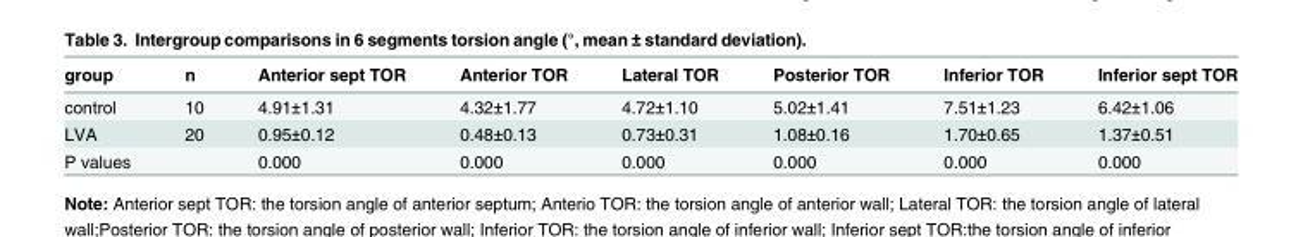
<table><thead><tr><td>group</td><td>n</td><td>Anterior sept TOR</td><td>Anterior TOR</td><td>Lateral TOR</td><td>Posterior TOR</td><td>Inferior TOR</td><td>Inferior sept TOR</td></tr></thead><tbody><tr><td>control</td><td>10</td><td>4.91±1.31</td><td>4.32±1.77</td><td>4.72±1.10</td><td>5.02±1.41</td><td>7.51±1.23</td><td>6.42±1.06</td></tr><tr><td>LVA</td><td>20</td><td>0.95±0.12</td><td>0.48±0.13</td><td>0.73±0.31</td><td>1.08±0.16</td><td>1.70±0.65</td><td>1.37±0.51</td></tr><tr><td>P values</td><td></td><td>0.000</td><td>0.000</td><td>0.000</td><td>0.000</td><td>0.000</td><td>0.000</td></tr></tbody></table>